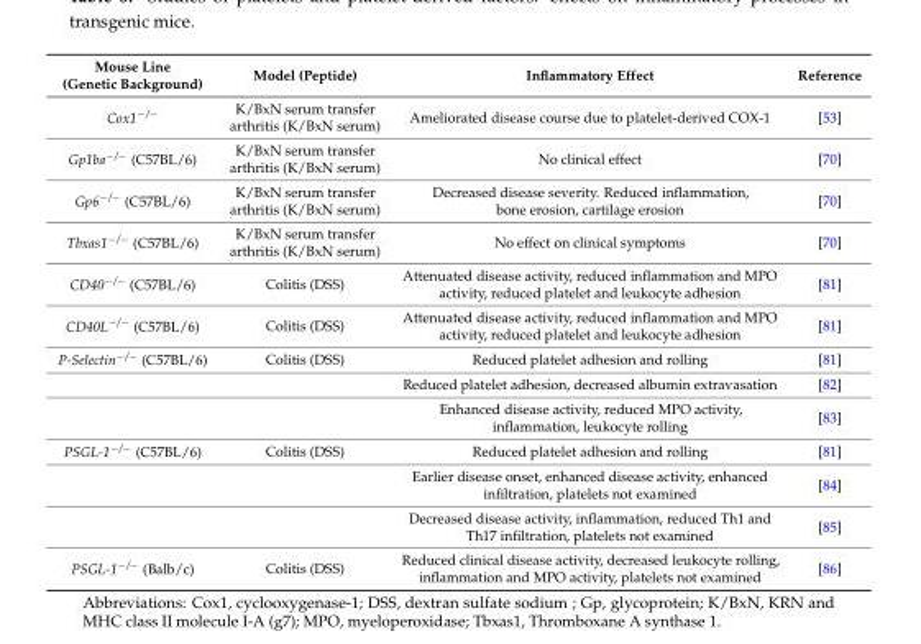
<table><thead><tr><td>Mouse Line (Genetic Background)</td><td>Model (Peptide)</td><td>Inflammatory Effect</td><td>Reference</td></tr></thead><tbody><tr><td>Cox1<sup>−/−</sup></td><td>K/BxN serum transfer arthritis (K/BxN serum)</td><td>Ameliorated disease course due to platelet-derived COX-1</td><td>[53]</td></tr><tr><td>Gp1ba<sup>−/−</sup> (C57BL/6)</td><td>K/BxN serum transfer arthritis (K/BxN serum)</td><td>No clinical effect</td><td>[70]</td></tr><tr><td>Gp6<sup>−/−</sup> (C57BL/6)</td><td>K/BxN serum transfer arthritis (K/BxN serum)</td><td>Decreased disease severity. Reduced inflammation, bone erosion, cartilage erosion</td><td>[70]</td></tr><tr><td>Tbxas1<sup>−/−</sup> (C57BL/6)</td><td>K/BxN serum transfer arthritis (K/BxN serum)</td><td>No effect on clinical symptoms</td><td>[70]</td></tr><tr><td>CD40<sup>−/−</sup> (C57BL/6)</td><td>Colitis (DSS)</td><td>Attenuated disease activity, reduced inflammation and MPO activity, reduced platelet and leukocyte adhesion</td><td>[81]</td></tr><tr><td>CD40L<sup>−/−</sup> (C57BL/6)</td><td>Colitis (DSS)</td><td>Attenuated disease activity, reduced inflammation and MPO activity, reduced platelet and leukocyte adhesion</td><td>[81]</td></tr><tr><td rowspan="3">P-Selectin<sup>−/−</sup> (C57BL/6)</td><td>Colitis (DSS)</td><td>Reduced platelet adhesion and rolling</td><td>[81]</td></tr><tr><td></td><td>Reduced platelet adhesion, decreased albumin extravasation</td><td>[82]</td></tr><tr><td></td><td>Enhanced disease activity, reduced MPO activity, inflammation, leukocyte rolling</td><td>[83]</td></tr><tr><td rowspan="3">PSGL-1<sup>−/−</sup> (C57BL/6)</td><td>Colitis (DSS)</td><td>Reduced platelet adhesion and rolling</td><td>[81]</td></tr><tr><td></td><td>Earlier disease onset, enhanced disease activity, enhanced infiltration, platelets not examined</td><td>[84]</td></tr><tr><td></td><td>Decreased disease activity, inflammation, reduced Th1 and Th17 infiltration, platelets not examined</td><td>[85]</td></tr><tr><td>PSGL-1<sup>−/−</sup> (Balb/c)</td><td>Colitis (DSS)</td><td>Reduced clinical disease activity, decreased leukocyte rolling, inflammation and MPO activity, platelets not examined</td><td>[86]</td></tr></tbody></table>